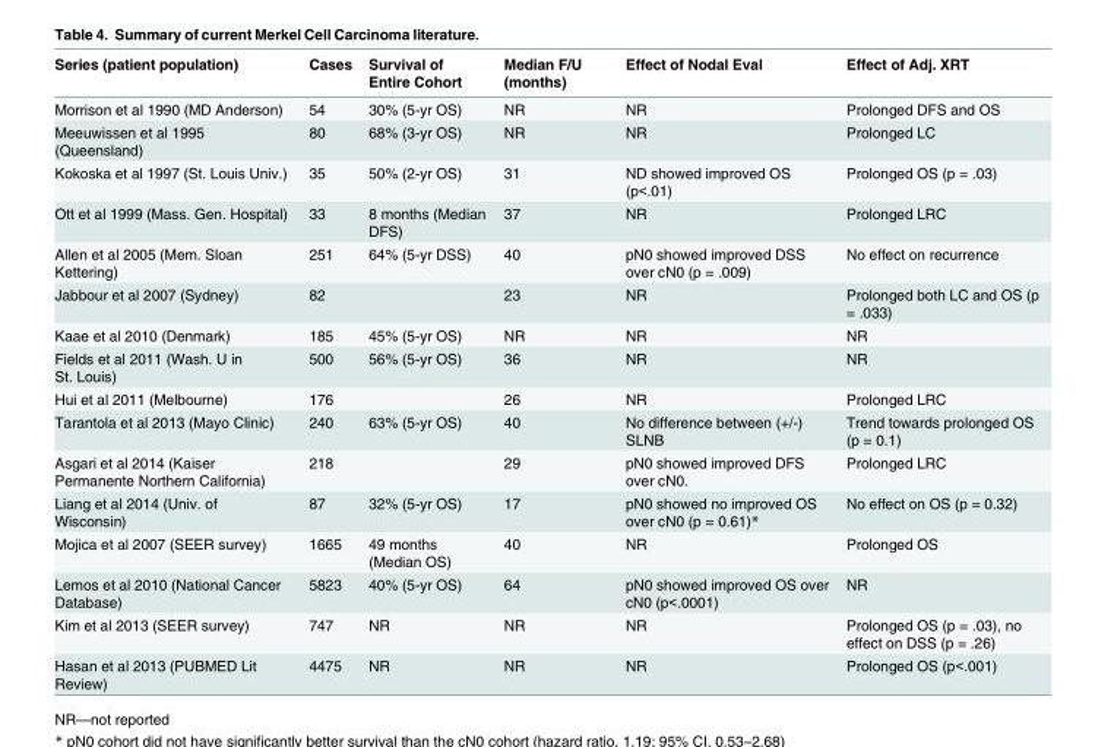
<table><thead><tr><td>Series (patient population)</td><td>Cases</td><td>Survival of Entire Cohort</td><td>Median F/U (months)</td><td>Effect of Nodal Eval</td><td>Effect of Adj. XRT</td></tr></thead><tbody><tr><td>Morrison et al 1990 (MD Anderson)</td><td>54</td><td>30% (5-yr OS)</td><td>NR</td><td>NR</td><td>Prolonged DFS and OS</td></tr><tr><td>Meeuwissen et al 1995 (Queensland)</td><td>80</td><td>68% (3-yr OS)</td><td>NR</td><td>NR</td><td>Prolonged LC</td></tr><tr><td>Kokoska et al 1997 (St. Louis Univ.)</td><td>35</td><td>50% (2-yr OS)</td><td>31</td><td>ND showed improved OS (p&lt;.01)</td><td>Prolonged OS (p = .03)</td></tr><tr><td>Ott et al 1999 (Mass. Gen. Hospital)</td><td>33</td><td>8 months (Median DFS)</td><td>37</td><td>NR</td><td>Prolonged LRC</td></tr><tr><td>Allen et al 2005 (Mem. Sloan Kettering)</td><td>251</td><td>64% (5-yr DSS)</td><td>40</td><td>pN0 showed improved DSS over cN0 (p = .009)</td><td>No effect on recurrence</td></tr><tr><td>Jabbour et al 2007 (Sydney)</td><td>82</td><td></td><td>23</td><td>NR</td><td>Prolonged both LC and OS (p = .033)</td></tr><tr><td>Kaae et al 2010 (Denmark)</td><td>185</td><td>45% (5-yr OS)</td><td>NR</td><td>NR</td><td>NR</td></tr><tr><td>Fields et al 2011 (Wash. U in St. Louis)</td><td>500</td><td>56% (5-yr OS)</td><td>36</td><td>NR</td><td>NR</td></tr><tr><td>Hui et al 2011 (Melbourne)</td><td>176</td><td></td><td>26</td><td>NR</td><td>Prolonged LRC</td></tr><tr><td>Tarantola et al 2013 (Mayo Clinic)</td><td>240</td><td>63% (5-yr OS)</td><td>40</td><td>No difference between (+/-) SLNB</td><td>Trend towards prolonged OS (p = 0.1)</td></tr><tr><td>Asgari et al 2014 (Kaiser Permanente Northern California)</td><td>218</td><td></td><td>29</td><td>pN0 showed improved DFS over cN0.</td><td>Prolonged LRC</td></tr><tr><td>Liang et al 2014 (Univ. of Wisconsin)</td><td>87</td><td>32% (5-yr OS)</td><td>17</td><td>pN0 showed no improved OS over cN0 (p = 0.61)*</td><td>No effect on OS (p = 0.32)</td></tr><tr><td>Mojica et al 2007 (SEER survey)</td><td>1665</td><td>49 months (Median OS)</td><td>40</td><td>NR</td><td>Prolonged OS</td></tr><tr><td>Lemos et al 2010 (National Cancer Database)</td><td>5823</td><td>40% (5-yr OS)</td><td>64</td><td>pN0 showed improved OS over cN0 (p&lt;.0001)</td><td>NR</td></tr><tr><td>Kim et al 2013 (SEER survey)</td><td>747</td><td>NR</td><td>NR</td><td>NR</td><td>Prolonged OS (p = .03), no effect on DSS (p = .26)</td></tr><tr><td>Hasan et al 2013 (PUBMED Lit Review)</td><td>4475</td><td>NR</td><td>NR</td><td>NR</td><td>Prolonged OS (p&lt;.001)</td></tr></tbody></table>